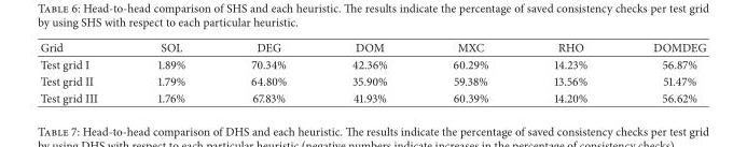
<table><thead><tr><td>Grid</td><td>SOL</td><td>DEG</td><td>DOM</td><td>MXC</td><td>RHO</td><td>DOMDEG</td></tr></thead><tbody><tr><td>Test grid I</td><td>1.89%</td><td>70.34%</td><td>42.36%</td><td>60.29%</td><td>14.23%</td><td>56.87%</td></tr><tr><td>Test grid II</td><td>1.79%</td><td>64.80%</td><td>35.90%</td><td>59.38%</td><td>13.56%</td><td>51.47%</td></tr><tr><td>Test grid III</td><td>1.76%</td><td>67.83%</td><td>41.93%</td><td>60.39%</td><td>14.20%</td><td>56.62%</td></tr></tbody></table>